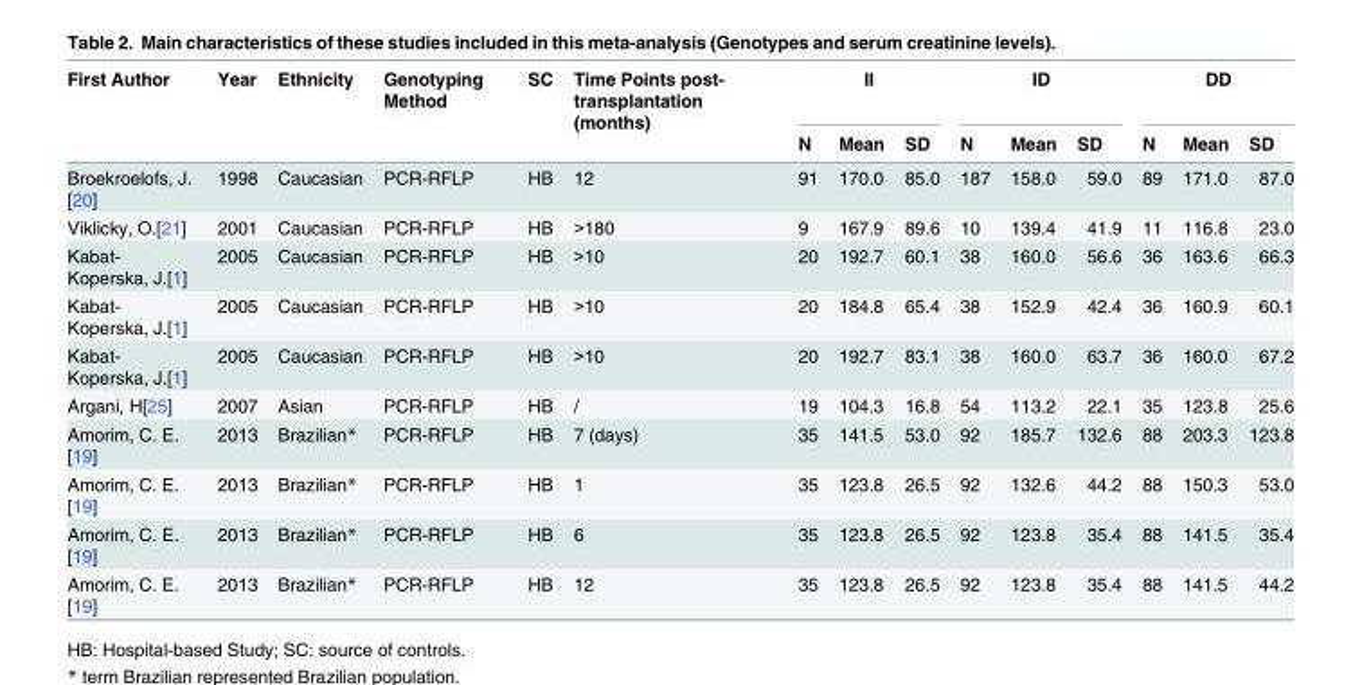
<table><thead><tr><td rowspan="2">First Author</td><td rowspan="2">Year</td><td rowspan="2">Ethnicity</td><td rowspan="2">Genotyping Method</td><td rowspan="2">SC</td><td rowspan="2">Time Points post- transplantation (months)</td><td colspan="3">II</td><td colspan="3">ID</td><td colspan="3">DD</td></tr><tr><td>N</td><td>Mean</td><td>SD</td><td>N</td><td>Mean</td><td>SD</td><td>N</td><td>Mean</td><td>SD</td></tr></thead><tbody><tr><td>Broekroelofs, J. [20]</td><td>1998</td><td>Caucasian</td><td>PCR-RFLP</td><td>HB</td><td>12</td><td>91</td><td>170.0</td><td>85.0</td><td>187</td><td>158.0</td><td>59.0</td><td>89</td><td>171.0</td><td>87.0</td></tr><tr><td>Viklicky, O.[21]</td><td>2001</td><td>Caucasian</td><td>PCR-RFLP</td><td>HB</td><td>&gt;180</td><td>9</td><td>167.9</td><td>89.6</td><td>10</td><td>139.4</td><td>41.9</td><td>11</td><td>116.8</td><td>23.0</td></tr><tr><td>Kabat- Koperska, J.[1]</td><td>2005</td><td>Caucasian</td><td>PCR-RFLP</td><td>HB</td><td>&gt;10</td><td>20</td><td>192.7</td><td>60.1</td><td>38</td><td>160.0</td><td>56.6</td><td>36</td><td>163.6</td><td>66.3</td></tr><tr><td>Kabat- Koperska, J.[1]</td><td>2005</td><td>Caucasian</td><td>PCR-RFLP</td><td>HB</td><td>&gt;10</td><td>20</td><td>184.8</td><td>65.4</td><td>38</td><td>152.9</td><td>42.4</td><td>36</td><td>160.9</td><td>60.1</td></tr><tr><td>Kabat- Koperska, J.[1]</td><td>2005</td><td>Caucasian</td><td>PCR-RFLP</td><td>HB</td><td>&gt;10</td><td>20</td><td>192.7</td><td>83.1</td><td>38</td><td>160.0</td><td>63.7</td><td>36</td><td>160.0</td><td>67.2</td></tr><tr><td>Argani, H[25]</td><td>2007</td><td>Asian</td><td>PCR-RFLP</td><td>HB</td><td>/</td><td>19</td><td>104.3</td><td>16.8</td><td>54</td><td>113.2</td><td>22.1</td><td>35</td><td>123.8</td><td>25.6</td></tr><tr><td>Amorim, C. E. [19]</td><td>2013</td><td>Brazilian*</td><td>PCR-RFLP</td><td>HB</td><td>7 (days)</td><td>35</td><td>141.5</td><td>53.0</td><td>92</td><td>185.7</td><td>132.6</td><td>88</td><td>203.3</td><td>123.8</td></tr><tr><td>Amorim, C. E. [19]</td><td>2013</td><td>Brazilian*</td><td>PCR-RFLP</td><td>HB</td><td>1</td><td>35</td><td>123.8</td><td>26.5</td><td>92</td><td>132.6</td><td>44.2</td><td>88</td><td>150.3</td><td>53.0</td></tr><tr><td>Amorim, C. E. [19]</td><td>2013</td><td>Brazilian*</td><td>PCR-RFLP</td><td>HB</td><td>6</td><td>35</td><td>123.8</td><td>26.5</td><td>92</td><td>123.8</td><td>35.4</td><td>88</td><td>141.5</td><td>35.4</td></tr><tr><td>Amorim, C. E. [19]</td><td>2013</td><td>Brazilian*</td><td>PCR-RFLP</td><td>HB</td><td>12</td><td>35</td><td>123.8</td><td>26.5</td><td>92</td><td>123.8</td><td>35.4</td><td>88</td><td>141.5</td><td>44.2</td></tr></tbody></table>